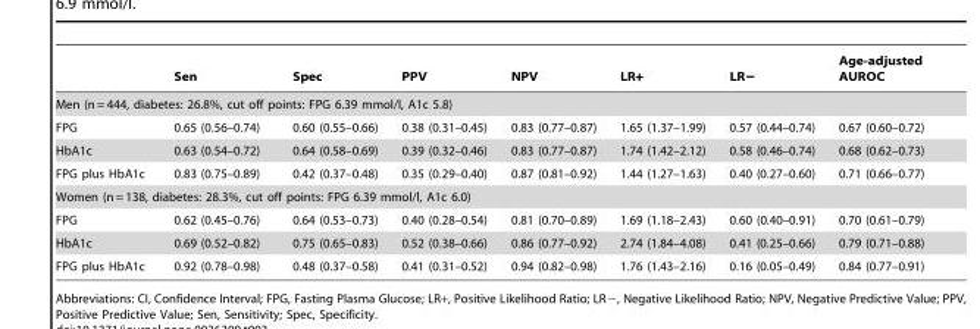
<table><thead><tr><td></td><td>Sen</td><td>Spec</td><td>PPV</td><td>NPV</td><td>LR+</td><td>LR−</td><td>Age-adjusted AUROC</td></tr></thead><tbody><tr><td colspan="8">Men (n = 444, diabetes: 26.8%, cut off points: FPG 6.39 mmol/l, A1c 5.8)</td></tr><tr><td>FPG</td><td>0.65 (0.56–0.74)</td><td>0.60 (0.55–0.66)</td><td>0.38 (0.31–0.45)</td><td>0.83 (0.77–0.87)</td><td>1.65 (1.37–1.99)</td><td>0.57 (0.44–0.74)</td><td>0.67 (0.60–0.72)</td></tr><tr><td>HbA1c</td><td>0.63 (0.54–0.72)</td><td>0.64 (0.58–0.69)</td><td>0.39 (0.32–0.46)</td><td>0.83 (0.77–0.87)</td><td>1.74 (1.42–2.12)</td><td>0.58 (0.46–0.74)</td><td>0.68 (0.62–0.73)</td></tr><tr><td>FPG plus HbA1c</td><td>0.83 (0.75–0.89)</td><td>0.42 (0.37–0.48)</td><td>0.35 (0.29–0.40)</td><td>0.87 (0.81–0.92)</td><td>1.44 (1.27–1.63)</td><td>0.40 (0.27–0.60)</td><td>0.71 (0.66–0.77)</td></tr><tr><td colspan="8">Women (n = 138, diabetes: 28.3%, cut off points: FPG 6.39 mmol/l, A1c 6.0)</td></tr><tr><td>FPG</td><td>0.62 (0.45–0.76)</td><td>0.64 (0.53–0.73)</td><td>0.40 (0.28–0.54)</td><td>0.81 (0.70–0.89)</td><td>1.69 (1.18–2.43)</td><td>0.60 (0.40–0.91)</td><td>0.70 (0.61–0.79)</td></tr><tr><td>HbA1c</td><td>0.69 (0.52–0.82)</td><td>0.75 (0.65–0.83)</td><td>0.52 (0.38–0.66)</td><td>0.86 (0.77–0.92)</td><td>2.74 (1.84–4.08)</td><td>0.41 (0.25–0.66)</td><td>0.79 (0.71–0.88)</td></tr><tr><td>FPG plus HbA1c</td><td>0.92 (0.78–0.98)</td><td>0.48 (0.37–0.58)</td><td>0.41 (0.31–0.52)</td><td>0.94 (0.82–0.98)</td><td>1.76 (1.43–2.16)</td><td>0.16 (0.05–0.49)</td><td>0.84 (0.77–0.91)</td></tr></tbody></table>